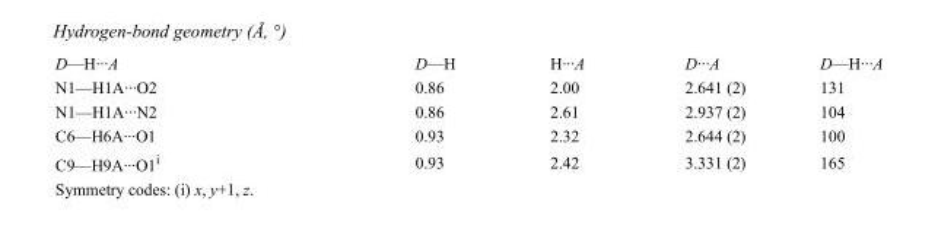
<table><tbody><tr><td>D—H···A</td><td>D—H</td><td>H···A</td><td>D···A</td><td>D—H···A</td></tr><tr><td>N1—H1A···O2</td><td>0.86</td><td>2.00</td><td>2.641 (2)</td><td>131</td></tr><tr><td>N1—H1A···N2</td><td>0.86</td><td>2.61</td><td>2.937 (2)</td><td>104</td></tr><tr><td>C6—H6A···O1</td><td>0.93</td><td>2.32</td><td>2.644 (2)</td><td>100</td></tr><tr><td>C9—H9A···O1<sup>i</sup></td><td>0.93</td><td>2.42</td><td>3.331 (2)</td><td>165</td></tr></tbody></table>